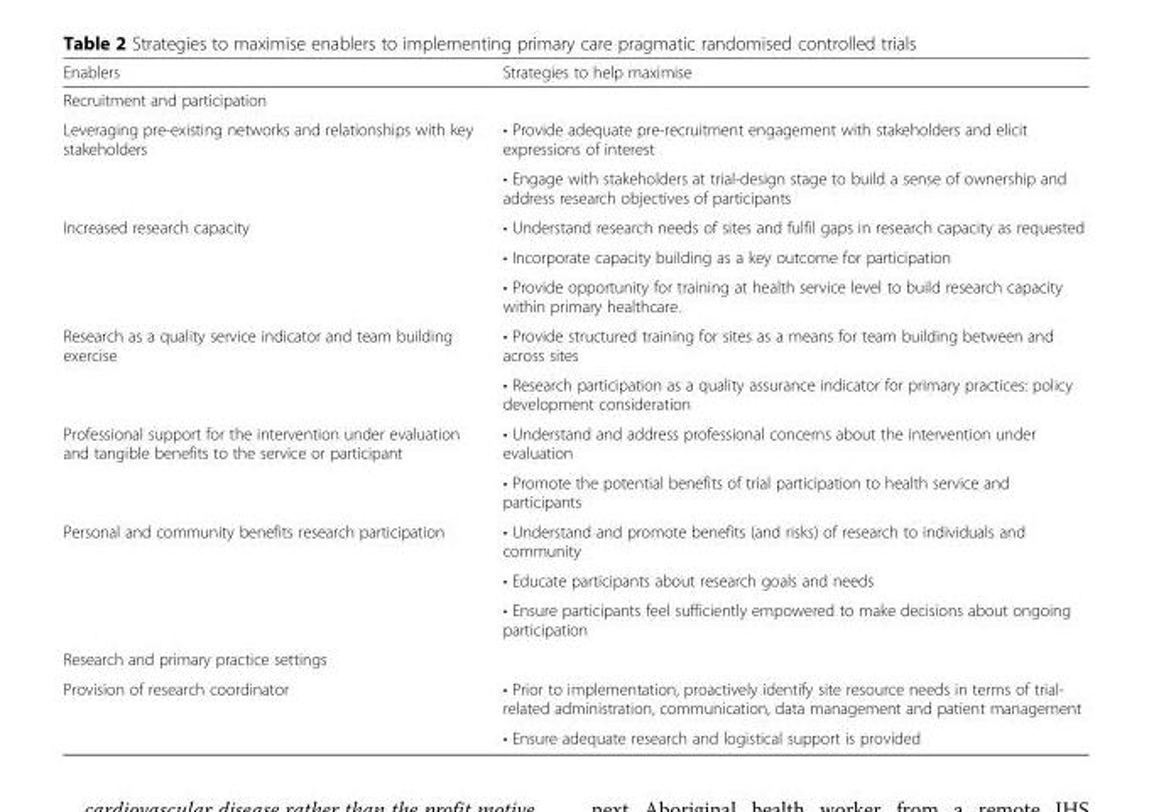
<table><thead><tr><td>Enablers</td><td>Strategies to help maximise</td></tr></thead><tbody><tr><td colspan="2">Recruitment and participation</td></tr><tr><td rowspan="2">Leveraging pre-existing networks and relationships with key stakeholders</td><td>• Provide adequate pre-recruitment engagement with stakeholders and elicit expressions of interest</td></tr><tr><td>• Engage with stakeholders at trial-design stage to build a sense of ownership and address research objectives of participants</td></tr><tr><td rowspan="3">Increased research capacity</td><td>• Understand research needs of sites and fulfil gaps in research capacity as requested</td></tr><tr><td>• Incorporate capacity building as a key outcome for participation</td></tr><tr><td>• Provide opportunity for training at health service level to build research capacity within primary healthcare.</td></tr><tr><td rowspan="2">Research as a quality service indicator and team building exercise</td><td>• Provide structured training for sites as a means for team building between and across sites</td></tr><tr><td>• Research participation as a quality assurance indicator for primary practices: policy development consideration</td></tr><tr><td rowspan="2">Professional support for the intervention under evaluation and tangible benefits to the service or participant</td><td>• Understand and address professional concerns about the intervention under evaluation</td></tr><tr><td>• Promote the potential benefits of trial participation to health service and participants</td></tr><tr><td rowspan="3">Personal and community benefits research participation</td><td>• Understand and promote benefits (and risks) of research to individuals and community</td></tr><tr><td>• Educate participants about research goals and needs</td></tr><tr><td>• Ensure participants feel sufficiently empowered to make decisions about ongoing participation</td></tr><tr><td colspan="2">Research and primary practice settings</td></tr><tr><td rowspan="2">Provision of research coordinator</td><td>• Prior to implementation, proactively identify site resource needs in terms of trial- related administration, communication, data management and patient management</td></tr><tr><td>• Ensure adequate research and logistical support is provided</td></tr></tbody></table>